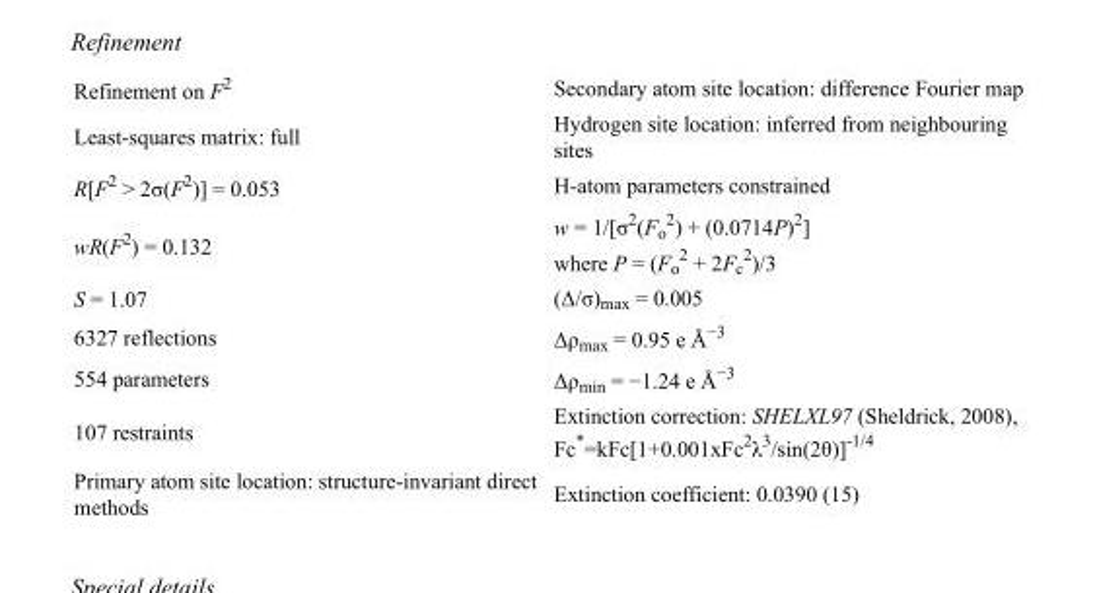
<table><tbody><tr><td>Refinement on F<sup>2</sup></td><td>Secondary atom site location: difference Fourier map</td></tr><tr><td>Least-squares matrix: full</td><td>Hydrogen site location: inferred from neighbouring sites</td></tr><tr><td>R[F<sup>2</sup> &gt; 2σ(F<sup>2</sup>)] = 0.053</td><td>H-atom parameters constrained</td></tr><tr><td>wR(F<sup>2</sup>) = 0.132</td><td>w = 1/[σ<sup>2</sup>(F<sub>o</sub> <sup>2</sup>) + (0.0714P)<sup>2</sup>] where P = (F<sub>o</sub> <sup>2</sup> + 2F<sub>c</sub> <sup>2</sup>)/3</td></tr><tr><td>S = 1.07</td><td>(Δ/σ)<sub>max</sub> = 0.005</td></tr><tr><td>6327 reflections</td><td>Δρ<sub>max</sub> = 0.95 e Å<sup>−3</sup></td></tr><tr><td>554 parameters</td><td>Δρ<sub>min</sub> = −1.24 e Å<sup>−3</sup></td></tr><tr><td>107 restraints</td><td>Extinction correction: SHELXL97 (Sheldrick, 2008), Fc*=kFc[1+0.001xFc<sup>2</sup>λ<sup>3</sup>/sin(2θ)]<sup>-1/4</sup></td></tr><tr><td>Primary atom site location: structure-invariant direct methods</td><td>Extinction coefficient: 0.0390 (15)</td></tr></tbody></table>